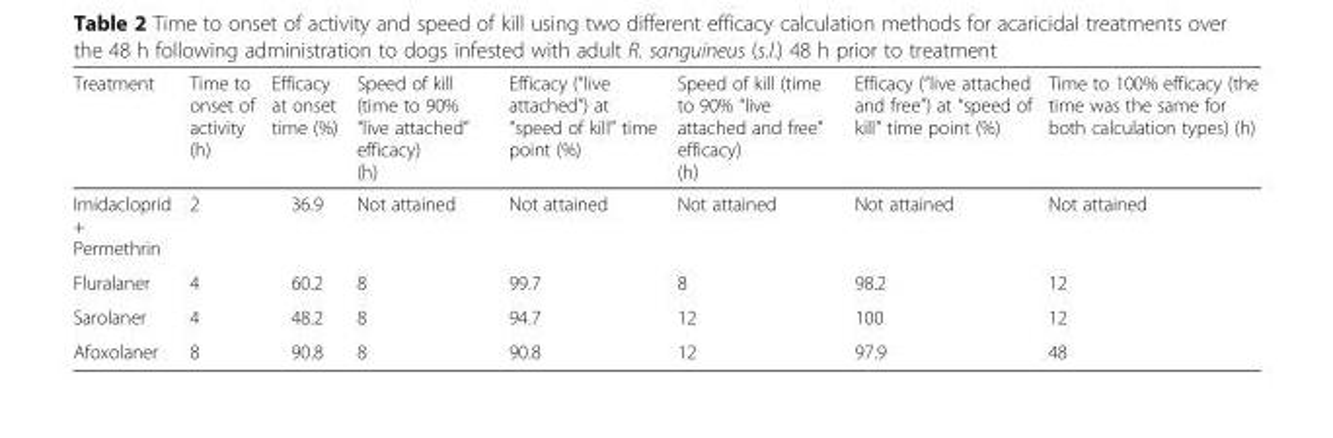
<table><thead><tr><td>Treatment</td><td>Time to onset of activity (h)</td><td>Efficacy at onset time (%)</td><td>Speed of kill (time to 90% “live attached” efficacy) (h)</td><td>Efficacy (“live attached”) at “speed of kill” time point (%)</td><td>Speed of kill (time to 90% “live attached and free” efficacy) (h)</td><td>Efficacy (“live attached and free”) at “speed of kill” time point (%)</td><td>Time to 100% efficacy (the time was the same for both calculation types) (h)</td></tr></thead><tbody><tr><td>Imidacloprid + Permethrin</td><td>2</td><td>36.9</td><td>Not attained</td><td>Not attained</td><td>Not attained</td><td>Not attained</td><td>Not attained</td></tr><tr><td>Fluralaner</td><td>4</td><td>60.2</td><td>8</td><td>99.7</td><td>8</td><td>98.2</td><td>12</td></tr><tr><td>Sarolaner</td><td>4</td><td>48.2</td><td>8</td><td>94.7</td><td>12</td><td>100</td><td>12</td></tr><tr><td>Afoxolaner</td><td>8</td><td>90.8</td><td>8</td><td>90.8</td><td>12</td><td>97.9</td><td>48</td></tr></tbody></table>